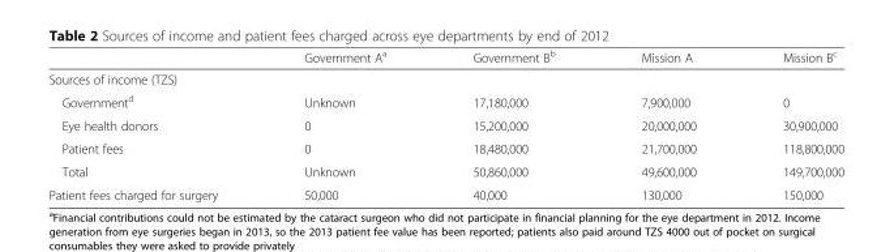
<table><thead><tr><td></td><td>Government A<sup>a</sup></td><td>Government B<sup>b</sup></td><td>Mission A</td><td>Mission B<sup>c</sup></td></tr></thead><tbody><tr><td colspan="5">Sources of income (TZS)</td></tr><tr><td>Government<sup>d</sup></td><td>Unknown</td><td>17,180,000</td><td>7,900,000</td><td>0</td></tr><tr><td>Eye health donors</td><td>0</td><td>15,200,000</td><td>20,000,000</td><td>30,900,000</td></tr><tr><td>Patient fees</td><td>0</td><td>18,480,000</td><td>21,700,000</td><td>118,800,000</td></tr><tr><td>Total</td><td>Unknown</td><td>50,860,000</td><td>49,600,000</td><td>149,700,000</td></tr><tr><td>Patient fees charged for surgery</td><td>50,000</td><td>40,000</td><td>130,000</td><td>150,000</td></tr></tbody></table>